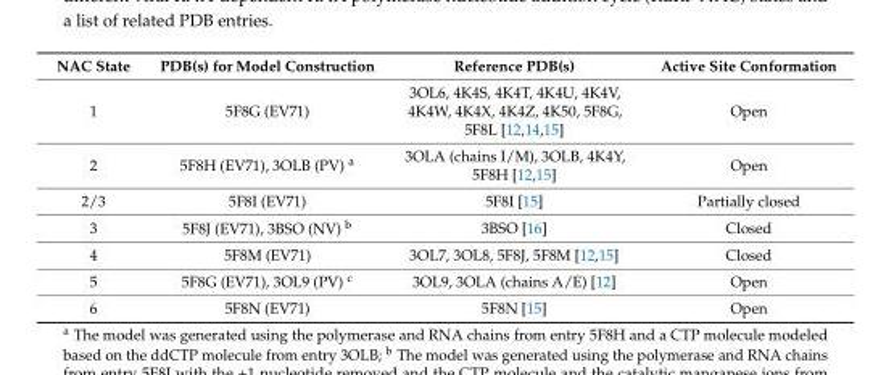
<table><thead><tr><td>NAC State</td><td>PDB(s) for Model Construction</td><td>Reference PDB(s)</td><td>Active Site Conformation</td></tr></thead><tbody><tr><td>1</td><td>5F8G (EV71)</td><td>3OL6, 4K4S, 4K4T, 4K4U, 4K4V, 4K4W, 4K4X, 4K4Z, 4K50, 5F8G, 5F8L [12,14,15]</td><td>Open</td></tr><tr><td>2</td><td>5F8H (EV71), 3OLB (PV) <sup>a</sup></td><td>3OLA (chains I/M), 3OLB, 4K4Y, 5F8H [12,15]</td><td>Open</td></tr><tr><td>2/3</td><td>5F8I (EV71)</td><td>5F8I [15]</td><td>Partially closed</td></tr><tr><td>3</td><td>5F8J (EV71), 3BSO (NV) <sup>b</sup></td><td>3BSO [16]</td><td>Closed</td></tr><tr><td>4</td><td>5F8M (EV71)</td><td>3OL7, 3OL8, 5F8J, 5F8M [12,15]</td><td>Closed</td></tr><tr><td>5</td><td>5F8G (EV71), 3OL9 (PV) <sup>c</sup></td><td>3OL9, 3OLA (chains A/E) [12]</td><td>Open</td></tr><tr><td>6</td><td>5F8N (EV71)</td><td>5F8N [15]</td><td>Open</td></tr></tbody></table>